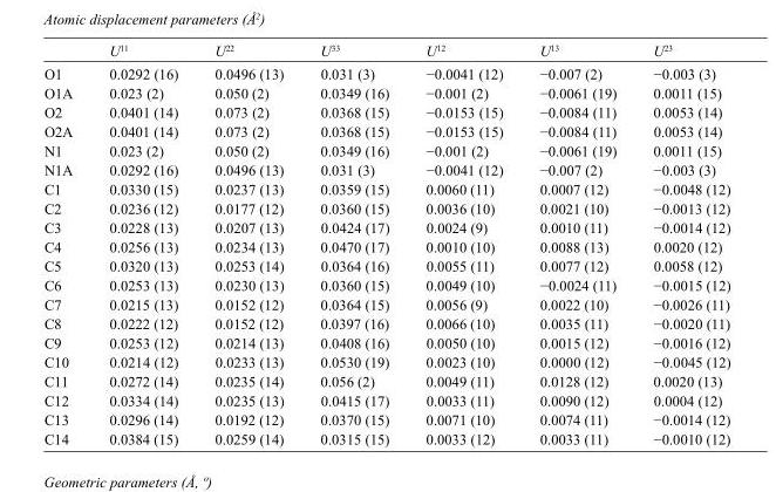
<table><thead><tr><td></td><td>U<sup>11</sup></td><td>U<sup>22</sup></td><td>U<sup>33</sup></td><td>U<sup>12</sup></td><td>U<sup>13</sup></td><td>U<sup>23</sup></td></tr></thead><tbody><tr><td>O1</td><td>0.0292 (16)</td><td>0.0496 (13)</td><td>0.031 (3)</td><td>−0.0041 (12)</td><td>−0.007 (2)</td><td>−0.003 (3)</td></tr><tr><td>O1A</td><td>0.023 (2)</td><td>0.050 (2)</td><td>0.0349 (16)</td><td>−0.001 (2)</td><td>−0.0061 (19)</td><td>0.0011 (15)</td></tr><tr><td>O2</td><td>0.0401 (14)</td><td>0.073 (2)</td><td>0.0368 (15)</td><td>−0.0153 (15)</td><td>−0.0084 (11)</td><td>0.0053 (14)</td></tr><tr><td>O2A</td><td>0.0401 (14)</td><td>0.073 (2)</td><td>0.0368 (15)</td><td>−0.0153 (15)</td><td>−0.0084 (11)</td><td>0.0053 (14)</td></tr><tr><td>N1</td><td>0.023 (2)</td><td>0.050 (2)</td><td>0.0349 (16)</td><td>−0.001 (2)</td><td>−0.0061 (19)</td><td>0.0011 (15)</td></tr><tr><td>N1A</td><td>0.0292 (16)</td><td>0.0496 (13)</td><td>0.031 (3)</td><td>−0.0041 (12)</td><td>−0.007 (2)</td><td>−0.003 (3)</td></tr><tr><td>C1</td><td>0.0330 (15)</td><td>0.0237 (13)</td><td>0.0359 (15)</td><td>0.0060 (11)</td><td>0.0007 (12)</td><td>−0.0048 (12)</td></tr><tr><td>C2</td><td>0.0236 (12)</td><td>0.0177 (12)</td><td>0.0360 (15)</td><td>0.0036 (10)</td><td>0.0021 (10)</td><td>−0.0013 (12)</td></tr><tr><td>C3</td><td>0.0228 (13)</td><td>0.0207 (13)</td><td>0.0424 (17)</td><td>0.0024 (9)</td><td>0.0010 (11)</td><td>−0.0014 (12)</td></tr><tr><td>C4</td><td>0.0256 (13)</td><td>0.0234 (13)</td><td>0.0470 (17)</td><td>0.0010 (10)</td><td>0.0088 (13)</td><td>0.0020 (12)</td></tr><tr><td>C5</td><td>0.0320 (13)</td><td>0.0253 (14)</td><td>0.0364 (16)</td><td>0.0055 (11)</td><td>0.0077 (12)</td><td>0.0058 (12)</td></tr><tr><td>C6</td><td>0.0253 (13)</td><td>0.0230 (13)</td><td>0.0360 (15)</td><td>0.0049 (10)</td><td>−0.0024 (11)</td><td>−0.0015 (12)</td></tr><tr><td>C7</td><td>0.0215 (13)</td><td>0.0152 (12)</td><td>0.0364 (15)</td><td>0.0056 (9)</td><td>0.0022 (10)</td><td>−0.0026 (11)</td></tr><tr><td>C8</td><td>0.0222 (12)</td><td>0.0152 (12)</td><td>0.0397 (16)</td><td>0.0066 (10)</td><td>0.0035 (11)</td><td>−0.0020 (11)</td></tr><tr><td>C9</td><td>0.0253 (12)</td><td>0.0214 (13)</td><td>0.0408 (16)</td><td>0.0050 (10)</td><td>0.0015 (12)</td><td>−0.0016 (12)</td></tr><tr><td>C10</td><td>0.0214 (12)</td><td>0.0233 (13)</td><td>0.0530 (19)</td><td>0.0023 (10)</td><td>0.0000 (12)</td><td>−0.0045 (12)</td></tr><tr><td>C11</td><td>0.0272 (14)</td><td>0.0235 (14)</td><td>0.056 (2)</td><td>0.0049 (11)</td><td>0.0128 (12)</td><td>0.0020 (13)</td></tr><tr><td>C12</td><td>0.0334 (14)</td><td>0.0235 (13)</td><td>0.0415 (17)</td><td>0.0033 (11)</td><td>0.0090 (12)</td><td>0.0004 (12)</td></tr><tr><td>C13</td><td>0.0296 (14)</td><td>0.0192 (12)</td><td>0.0370 (15)</td><td>0.0071 (10)</td><td>0.0074 (11)</td><td>−0.0014 (12)</td></tr><tr><td>C14</td><td>0.0384 (15)</td><td>0.0259 (14)</td><td>0.0315 (15)</td><td>0.0033 (12)</td><td>0.0033 (11)</td><td>−0.0010 (12)</td></tr></tbody></table>